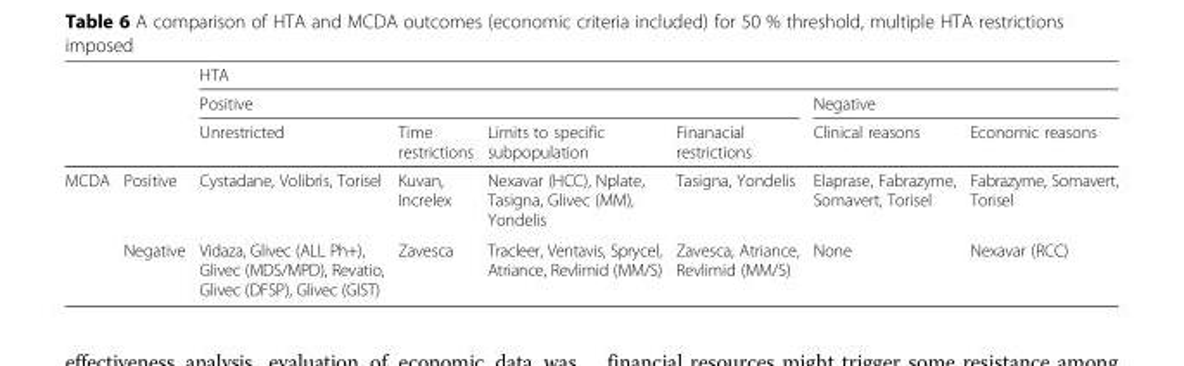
<table><thead><tr><td rowspan="3"></td><td rowspan="3"></td><td colspan="6">HTA</td></tr><tr><td colspan="4">Positive</td><td colspan="2">Negative</td></tr><tr><td>Unrestricted</td><td>Time restrictions</td><td>Limits to specific subpopulation</td><td>Finanacial restrictions</td><td>Clinical reasons</td><td>Economic reasons</td></tr></thead><tbody><tr><td rowspan="2">MCDA</td><td>Positive</td><td>Cystadane, Volibris, Torisel</td><td>Kuvan, Increlex</td><td>Nexavar (HCC), Nplate, Tasigna, Glivec (MM), Yondelis</td><td>Tasigna, Yondelis</td><td>Elaprase, Fabrazyme, Somavert, Torisel</td><td>Fabrazyme, Somavert, Torisel</td></tr><tr><td>Negative</td><td>Vidaza, Glivec (ALL Ph+), Glivec (MDS/MPD), Revatio, Glivec (DFSP), Glivec (GIST)</td><td>Zavesca</td><td>Tracleer, Ventavis, Sprycel, Atriance, Revlimid (MM/S)</td><td>Zavesca, Atriance, Revlimid (MM/S)</td><td>None</td><td>Nexavar (RCC)</td></tr></tbody></table>